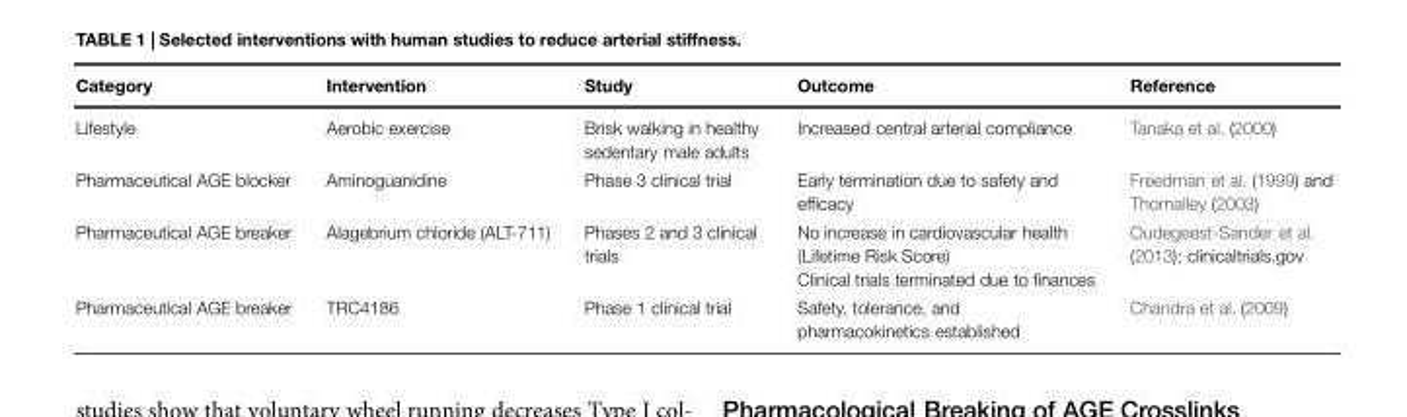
<table><thead><tr><td>Category</td><td>Intervention</td><td>Study</td><td>Outcome</td><td>Reference</td></tr></thead><tbody><tr><td>Lifestyle</td><td>Aerobic exercise</td><td>Brisk walking in healthy sedentary male adults</td><td>Increased central arterial compliance</td><td>Tanaka et al. (2000)</td></tr><tr><td>Pharmaceutical AGE blocker</td><td>Aminoguanidine</td><td>Phase 3 clinical trial</td><td>Early termination due to safety and efficacy</td><td>Freedman et al. (1999) and Thornalley (2003)</td></tr><tr><td>Pharmaceutical AGE breaker</td><td>Alagebrium chloride (ALT-711)</td><td>Phases 2 and 3 clinical trials</td><td>No increase in cardiovascular health (Lifetime Risk Score) Clinical trials terminated due to finances</td><td>Oudegeest-Sander et al. (2013); clinicaltrials.gov</td></tr><tr><td>Pharmaceutical AGE breaker</td><td>TRC4186</td><td>Phase 1 clinical trial</td><td>Safety, tolerance, and pharmacokinetics established</td><td>Chandra et al. (2009)</td></tr></tbody></table>